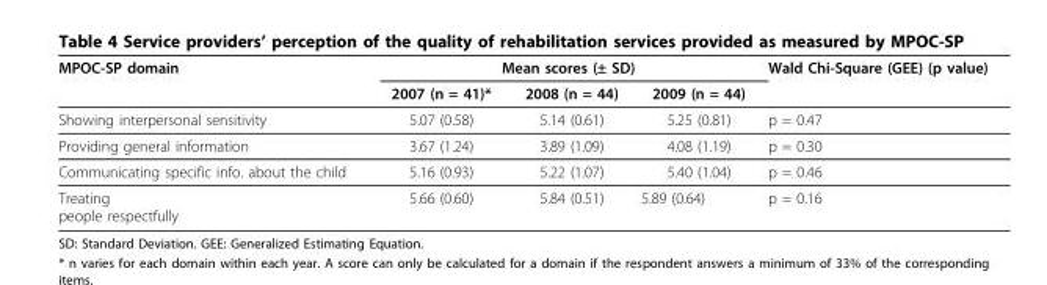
<table><thead><tr><td rowspan="2">MPOC-SP domain</td><td colspan="3">Mean scores (± SD)</td><td rowspan="2">Wald Chi-Square (GEE) (p value)</td></tr><tr><td>2007 (n = 41)*</td><td>2008 (n = 44)</td><td>2009 (n = 44)</td></tr></thead><tbody><tr><td>Showing interpersonal sensitivity</td><td>5.07 (0.58)</td><td>5.14 (0.61)</td><td>5.25 (0.81)</td><td>p = 0.47</td></tr><tr><td>Providing general information</td><td>3.67 (1.24)</td><td>3.89 (1.09)</td><td>4.08 (1.19)</td><td>p = 0.30</td></tr><tr><td>Communicating specific info. about the child</td><td>5.16 (0.93)</td><td>5.22 (1.07)</td><td>5.40 (1.04)</td><td>p = 0.46</td></tr><tr><td>Treating people respectfully</td><td>5.66 (0.60)</td><td>5.84 (0.51)</td><td>5.89 (0.64)</td><td>p = 0.16</td></tr></tbody></table>